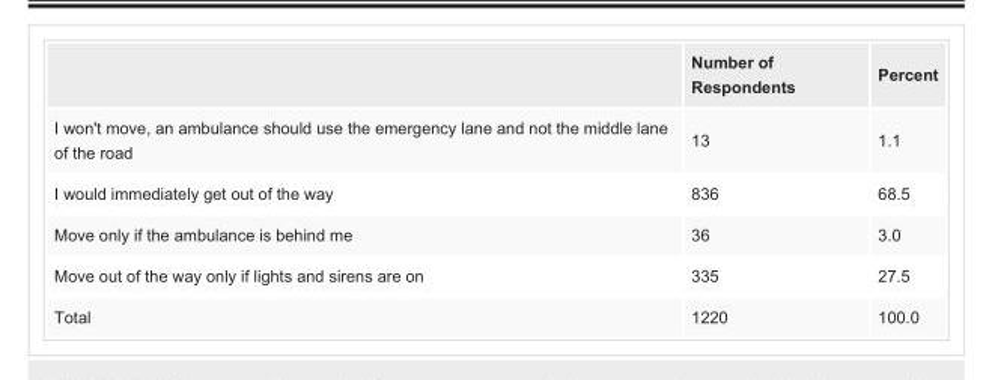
<table><thead><tr><td></td><td>Number of Respondents</td><td>Percent</td></tr></thead><tbody><tr><td>I won&#x27;t move, an ambulance should use the emergency lane and not the middle lane of the road</td><td>13</td><td>1.1</td></tr><tr><td>I would immediately get out of the way</td><td>836</td><td>68.5</td></tr><tr><td>Move only if the ambulance is behind me</td><td>36</td><td>3.0</td></tr><tr><td>Move out of the way only if lights and sirens are on</td><td>335</td><td>27.5</td></tr><tr><td>Total</td><td>1220</td><td>100.0</td></tr></tbody></table>